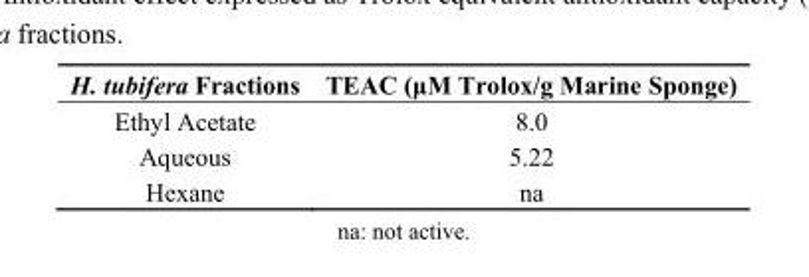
<table><thead><tr><td>H. tubifera Fractions</td><td>TEAC (μM Trolox/g Marine Sponge)</td></tr></thead><tbody><tr><td>Ethyl Acetate</td><td>8.0</td></tr><tr><td>Aqueous</td><td>5.22</td></tr><tr><td>Hexane</td><td>na</td></tr></tbody></table>